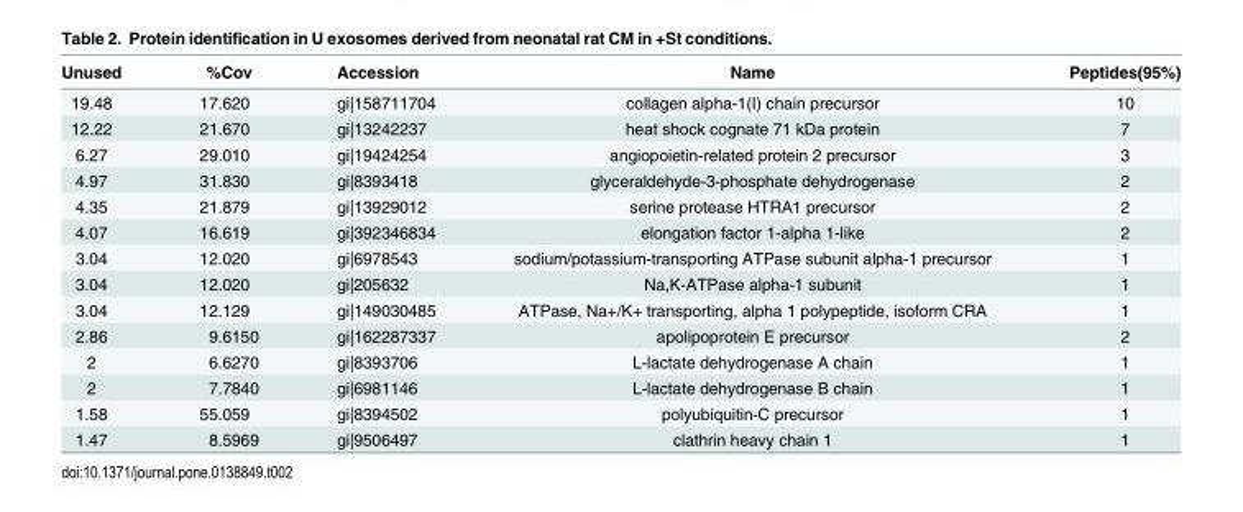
<table><thead><tr><td>Unused</td><td>%Cov</td><td>Accession</td><td>Name</td><td>Peptides(95%)</td></tr></thead><tbody><tr><td>19.48</td><td>17.620</td><td>gi|158711704</td><td>collagen alpha-1(I) chain precursor</td><td>10</td></tr><tr><td>12.22</td><td>21.670</td><td>gi|13242237</td><td>heat shock cognate 71 kDa protein</td><td>7</td></tr><tr><td>6.27</td><td>29.010</td><td>gi|19424254</td><td>angiopoietin-related protein 2 precursor</td><td>3</td></tr><tr><td>4.97</td><td>31.830</td><td>gi|8393418</td><td>glyceraldehyde-3-phosphate dehydrogenase</td><td>2</td></tr><tr><td>4.35</td><td>21.879</td><td>gi|13929012</td><td>serine protease HTRA1 precursor</td><td>2</td></tr><tr><td>4.07</td><td>16.619</td><td>gi|392346834</td><td>elongation factor 1-alpha 1-like</td><td>2</td></tr><tr><td>3.04</td><td>12.020</td><td>gi|6978543</td><td>sodium/potassium-transporting ATPase subunit alpha-1 precursor</td><td>1</td></tr><tr><td>3.04</td><td>12.020</td><td>gi|205632</td><td>Na,K-ATPase alpha-1 subunit</td><td>1</td></tr><tr><td>3.04</td><td>12.129</td><td>gi|149030485</td><td>ATPase, Na+/K+ transporting, alpha 1 polypeptide, isoform CRA</td><td>1</td></tr><tr><td>2.86</td><td>9.6150</td><td>gi|162287337</td><td>apolipoprotein E precursor</td><td>2</td></tr><tr><td>2</td><td>6.6270</td><td>gi|8393706</td><td>L-lactate dehydrogenase A chain</td><td>1</td></tr><tr><td>2</td><td>7.7840</td><td>gi|6981146</td><td>L-lactate dehydrogenase B chain</td><td>1</td></tr><tr><td>1.58</td><td>55.059</td><td>gi|8394502</td><td>polyubiquitin-C precursor</td><td>1</td></tr><tr><td>1.47</td><td>8.5969</td><td>gi|9506497</td><td>clathrin heavy chain 1</td><td>1</td></tr></tbody></table>